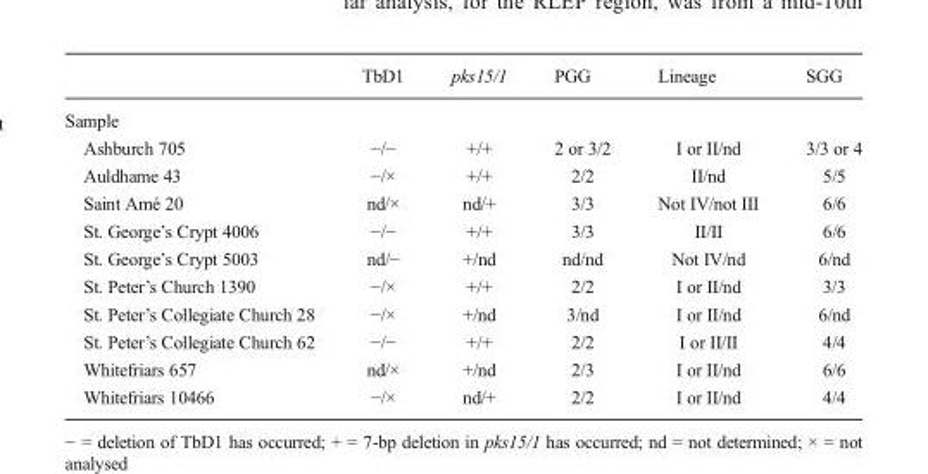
<table><thead><tr><td></td><td>TbD1</td><td>pks15/1</td><td>PGG</td><td>Lineage</td><td>SGG</td></tr></thead><tbody><tr><td colspan="6">Sample</td></tr><tr><td>Ashburch 705</td><td>−/−</td><td>+/+</td><td>2 or 3/2</td><td>I or II/nd</td><td>3/3 or 4</td></tr><tr><td>Auldhame 43</td><td>−/×</td><td>+/+</td><td>2/2</td><td>II/nd</td><td>5/5</td></tr><tr><td>Saint Amé 20</td><td>nd/×</td><td>nd/+</td><td>3/3</td><td>Not IV/not III</td><td>6/6</td></tr><tr><td>St. George’s Crypt 4006</td><td>−/−</td><td>+/+</td><td>3/3</td><td>II/II</td><td>6/6</td></tr><tr><td>St. George’s Crypt 5003</td><td>nd/−</td><td>+/nd</td><td>nd/nd</td><td>Not IV/nd</td><td>6/nd</td></tr><tr><td>St. Peter’s Church 1390</td><td>−/×</td><td>+/+</td><td>2/2</td><td>I or II/nd</td><td>3/3</td></tr><tr><td>St. Peter’s Collegiate Church 28</td><td>−/×</td><td>+/nd</td><td>3/nd</td><td>I or II/nd</td><td>6/nd</td></tr><tr><td>St. Peter’s Collegiate Church 62</td><td>−/−</td><td>+/+</td><td>2/2</td><td>I or II/II</td><td>4/4</td></tr><tr><td>Whitefriars 657</td><td>nd/×</td><td>+/nd</td><td>2/3</td><td>I or II/nd</td><td>6/6</td></tr><tr><td>Whitefriars 10466</td><td>−/×</td><td>nd/+</td><td>2/2</td><td>I or II/nd</td><td>4/4</td></tr></tbody></table>